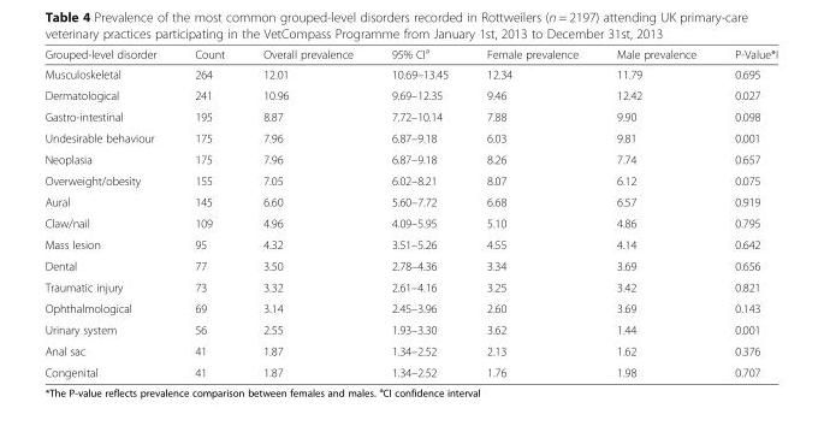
<table><thead><tr><td>Grouped-level disorder</td><td>Count</td><td>Overall prevalence</td><td>95% CI<sup>a</sup></td><td>Female prevalence</td><td>Male prevalence</td><td>P-Value*I</td></tr></thead><tbody><tr><td>Musculoskeletal</td><td>264</td><td>12.01</td><td>10.69–13.45</td><td>12.34</td><td>11.79</td><td>0.695</td></tr><tr><td>Dermatological</td><td>241</td><td>10.96</td><td>9.69–12.35</td><td>9.46</td><td>12.42</td><td>0.027</td></tr><tr><td>Gastro-intestinal</td><td>195</td><td>8.87</td><td>7.72–10.14</td><td>7.88</td><td>9.90</td><td>0.098</td></tr><tr><td>Undesirable behaviour</td><td>175</td><td>7.96</td><td>6.87–9.18</td><td>6.03</td><td>9.81</td><td>0.001</td></tr><tr><td>Neoplasia</td><td>175</td><td>7.96</td><td>6.87–9.18</td><td>8.26</td><td>7.74</td><td>0.657</td></tr><tr><td>Overweight/obesity</td><td>155</td><td>7.05</td><td>6.02–8.21</td><td>8.07</td><td>6.12</td><td>0.075</td></tr><tr><td>Aural</td><td>145</td><td>6.60</td><td>5.60–7.72</td><td>6.68</td><td>6.57</td><td>0.919</td></tr><tr><td>Claw/nail</td><td>109</td><td>4.96</td><td>4.09–5.95</td><td>5.10</td><td>4.86</td><td>0.795</td></tr><tr><td>Mass lesion</td><td>95</td><td>4.32</td><td>3.51–5.26</td><td>4.55</td><td>4.14</td><td>0.642</td></tr><tr><td>Dental</td><td>77</td><td>3.50</td><td>2.78–4.36</td><td>3.34</td><td>3.69</td><td>0.656</td></tr><tr><td>Traumatic injury</td><td>73</td><td>3.32</td><td>2.61–4.16</td><td>3.25</td><td>3.42</td><td>0.821</td></tr><tr><td>Ophthalmological</td><td>69</td><td>3.14</td><td>2.45–3.96</td><td>2.60</td><td>3.69</td><td>0.143</td></tr><tr><td>Urinary system</td><td>56</td><td>2.55</td><td>1.93–3.30</td><td>3.62</td><td>1.44</td><td>0.001</td></tr><tr><td>Anal sac</td><td>41</td><td>1.87</td><td>1.34–2.52</td><td>2.13</td><td>1.62</td><td>0.376</td></tr><tr><td>Congenital</td><td>41</td><td>1.87</td><td>1.34–2.52</td><td>1.76</td><td>1.98</td><td>0.707</td></tr></tbody></table>